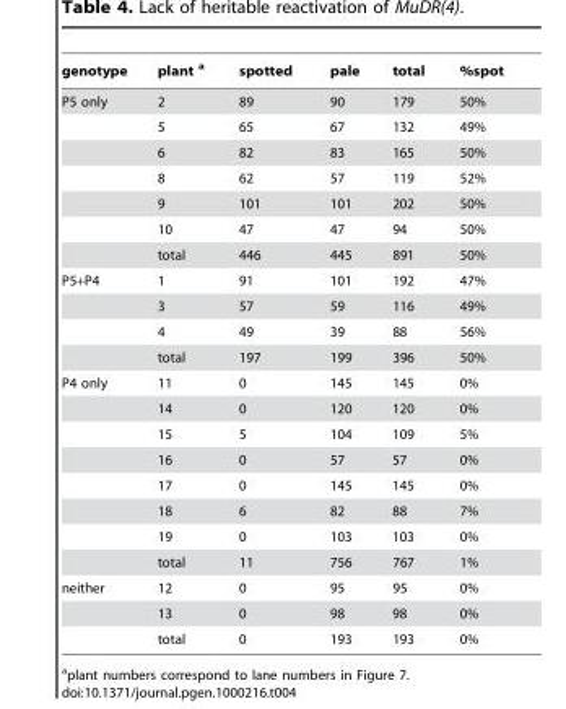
<table><thead><tr><td>genotype</td><td>plant a</td><td>spotted</td><td>pale</td><td>total</td><td>%spot</td></tr></thead><tbody><tr><td rowspan="7">P5 only</td><td>2</td><td>89</td><td>90</td><td>179</td><td>50%</td></tr><tr><td>5</td><td>65</td><td>67</td><td>132</td><td>49%</td></tr><tr><td>6</td><td>82</td><td>83</td><td>165</td><td>50%</td></tr><tr><td>8</td><td>62</td><td>57</td><td>119</td><td>52%</td></tr><tr><td>9</td><td>101</td><td>101</td><td>202</td><td>50%</td></tr><tr><td>10</td><td>47</td><td>47</td><td>94</td><td>50%</td></tr><tr><td>total</td><td>446</td><td>445</td><td>891</td><td>50%</td></tr><tr><td rowspan="4">P5+P4</td><td>1</td><td>91</td><td>101</td><td>192</td><td>47%</td></tr><tr><td>3</td><td>57</td><td>59</td><td>116</td><td>49%</td></tr><tr><td>4</td><td>49</td><td>39</td><td>88</td><td>56%</td></tr><tr><td>total</td><td>197</td><td>199</td><td>396</td><td>50%</td></tr><tr><td rowspan="8">P4 only</td><td>11</td><td>0</td><td>145</td><td>145</td><td>0%</td></tr><tr><td>14</td><td>0</td><td>120</td><td>120</td><td>0%</td></tr><tr><td>15</td><td>5</td><td>104</td><td>109</td><td>5%</td></tr><tr><td>16</td><td>0</td><td>57</td><td>57</td><td>0%</td></tr><tr><td>17</td><td>0</td><td>145</td><td>145</td><td>0%</td></tr><tr><td>18</td><td>6</td><td>82</td><td>88</td><td>7%</td></tr><tr><td>19</td><td>0</td><td>103</td><td>103</td><td>0%</td></tr><tr><td>total</td><td>11</td><td>756</td><td>767</td><td>1%</td></tr><tr><td rowspan="3">neither</td><td>12</td><td>0</td><td>95</td><td>95</td><td>0%</td></tr><tr><td>13</td><td>0</td><td>98</td><td>98</td><td>0%</td></tr><tr><td>total</td><td>0</td><td>193</td><td>193</td><td>0%</td></tr></tbody></table>